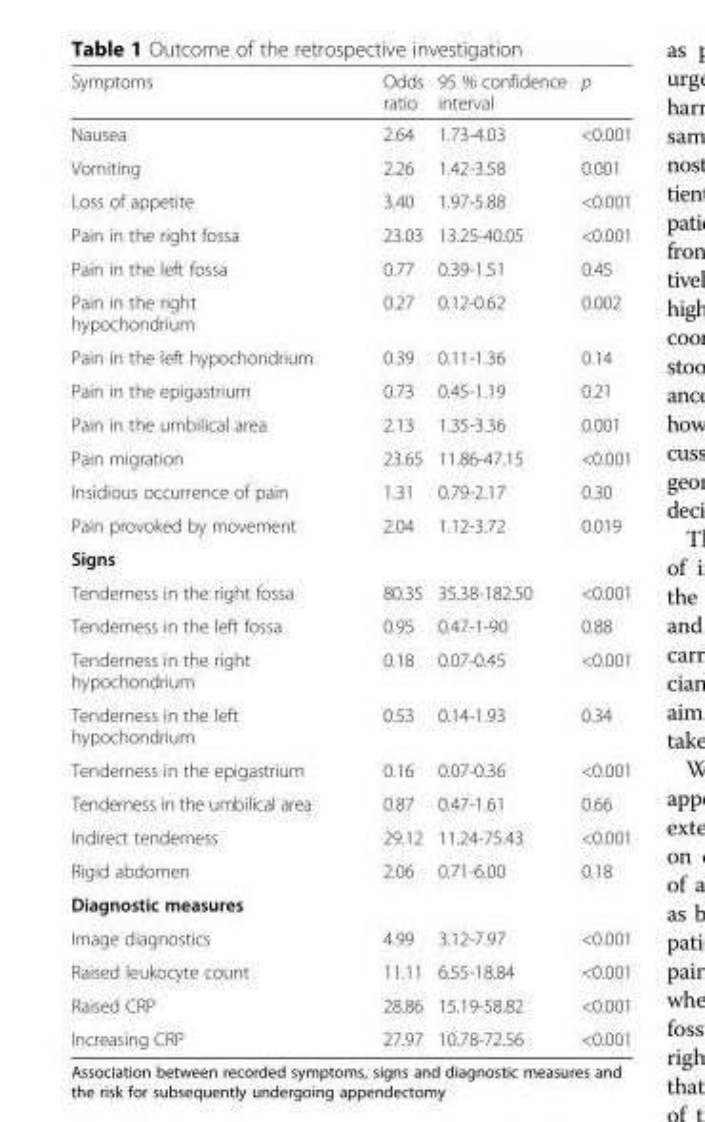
<table><thead><tr><td>Symptoms</td><td>Odds ratio</td><td>95 % confidence interval</td><td>p</td></tr></thead><tbody><tr><td>Nausea</td><td>2.64</td><td>1.73-4.03</td><td>&lt;0.001</td></tr><tr><td>Vomiting</td><td>2.26</td><td>1.42-3.58</td><td>0.001</td></tr><tr><td>Loss of appetite</td><td>3.40</td><td>1.97-5.88</td><td>&lt;0.001</td></tr><tr><td>Pain in the right fossa</td><td>23.03</td><td>13.25-40.05</td><td>&lt;0.001</td></tr><tr><td>Pain in the left fossa</td><td>0.77</td><td>0.39-1.51</td><td>0.45</td></tr><tr><td>Pain in the right hypochondrium</td><td>0.27</td><td>0.12-0.62</td><td>0.002</td></tr><tr><td>Pain in the left hypochondrium</td><td>0.39</td><td>0.11-1.36</td><td>0.14</td></tr><tr><td>Pain in the epigastrium</td><td>0.73</td><td>0.45-1.19</td><td>0.21</td></tr><tr><td>Pain in the umbilical area</td><td>2.13</td><td>1.35-3.36</td><td>0.001</td></tr><tr><td>Pain migration</td><td>23.65</td><td>11.86-47.15</td><td>&lt;0.001</td></tr><tr><td>Insidious occurrence of pain</td><td>1.31</td><td>0.79-2.17</td><td>0.30</td></tr><tr><td>Pain provoked by movement</td><td>2.04</td><td>1.12-3.72</td><td>0.019</td></tr><tr><td colspan="4">Signs</td></tr><tr><td>Tenderness in the right fossa</td><td>80.35</td><td>35.38-182.50</td><td>&lt;0.001</td></tr><tr><td>Tenderness in the left fossa</td><td>0.95</td><td>0.47-1-90</td><td>0.88</td></tr><tr><td>Tenderness in the right hypochondrium</td><td>0.18</td><td>0.07-0.45</td><td>&lt;0.001</td></tr><tr><td>Tenderness in the left hypochondrium</td><td>0.53</td><td>0.14-1.93</td><td>0.34</td></tr><tr><td>Tenderness in the epigastrium</td><td>0.16</td><td>0.07-0.36</td><td>&lt;0.001</td></tr><tr><td>Tenderness in the umbilical area</td><td>0.87</td><td>0.47-1.61</td><td>0.66</td></tr><tr><td>Indirect tenderness</td><td>29.12</td><td>11.24-75.43</td><td>&lt;0.001</td></tr><tr><td>Rigid abdomen</td><td>2.06</td><td>0.71-6.00</td><td>0.18</td></tr><tr><td colspan="4">Diagnostic measures</td></tr><tr><td>Image diagnostics</td><td>4.99</td><td>3.12-7.97</td><td>&lt;0.001</td></tr><tr><td>Raised leukocyte count</td><td>11.11</td><td>6.55-18.84</td><td>&lt;0.001</td></tr><tr><td>Raised CRP</td><td>28.86</td><td>15.19-58.82</td><td>&lt;0.001</td></tr><tr><td>Increasing CRP</td><td>27.97</td><td>10.78-72.56</td><td>&lt;0.001</td></tr></tbody></table>